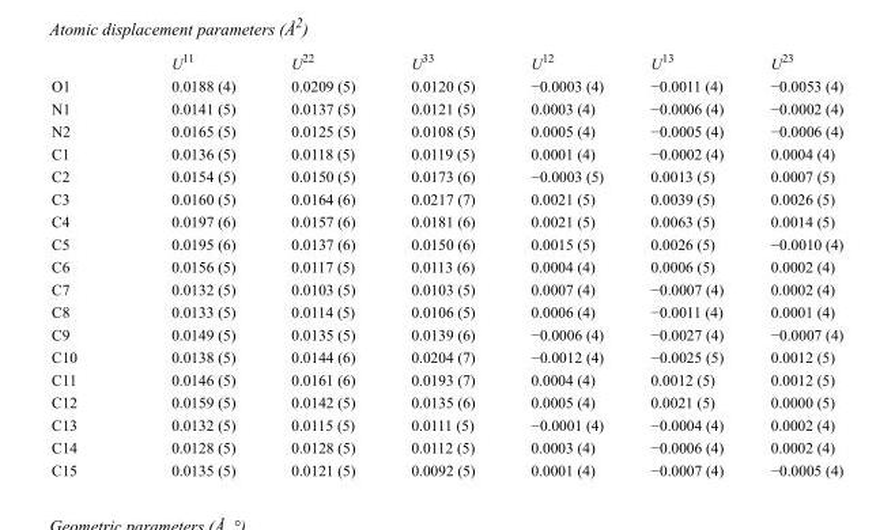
<table><thead><tr><td></td><td>U<sup>11</sup></td><td>U<sup>22</sup></td><td>U<sup>33</sup></td><td>U<sup>12</sup></td><td>U<sup>13</sup></td><td>U<sup>23</sup></td></tr></thead><tbody><tr><td>O1</td><td>0.0188 (4)</td><td>0.0209 (5)</td><td>0.0120 (5)</td><td>−0.0003 (4)</td><td>−0.0011 (4)</td><td>−0.0053 (4)</td></tr><tr><td>N1</td><td>0.0141 (5)</td><td>0.0137 (5)</td><td>0.0121 (5)</td><td>0.0003 (4)</td><td>−0.0006 (4)</td><td>−0.0002 (4)</td></tr><tr><td>N2</td><td>0.0165 (5)</td><td>0.0125 (5)</td><td>0.0108 (5)</td><td>0.0005 (4)</td><td>−0.0005 (4)</td><td>−0.0006 (4)</td></tr><tr><td>C1</td><td>0.0136 (5)</td><td>0.0118 (5)</td><td>0.0119 (5)</td><td>0.0001 (4)</td><td>−0.0002 (4)</td><td>0.0004 (4)</td></tr><tr><td>C2</td><td>0.0154 (5)</td><td>0.0150 (5)</td><td>0.0173 (6)</td><td>−0.0003 (5)</td><td>0.0013 (5)</td><td>0.0007 (5)</td></tr><tr><td>C3</td><td>0.0160 (5)</td><td>0.0164 (6)</td><td>0.0217 (7)</td><td>0.0021 (5)</td><td>0.0039 (5)</td><td>0.0026 (5)</td></tr><tr><td>C4</td><td>0.0197 (6)</td><td>0.0157 (6)</td><td>0.0181 (6)</td><td>0.0021 (5)</td><td>0.0063 (5)</td><td>0.0014 (5)</td></tr><tr><td>C5</td><td>0.0195 (6)</td><td>0.0137 (6)</td><td>0.0150 (6)</td><td>0.0015 (5)</td><td>0.0026 (5)</td><td>−0.0010 (4)</td></tr><tr><td>C6</td><td>0.0156 (5)</td><td>0.0117 (5)</td><td>0.0113 (6)</td><td>0.0004 (4)</td><td>0.0006 (5)</td><td>0.0002 (4)</td></tr><tr><td>C7</td><td>0.0132 (5)</td><td>0.0103 (5)</td><td>0.0103 (5)</td><td>0.0007 (4)</td><td>−0.0007 (4)</td><td>0.0002 (4)</td></tr><tr><td>C8</td><td>0.0133 (5)</td><td>0.0114 (5)</td><td>0.0106 (5)</td><td>0.0006 (4)</td><td>−0.0011 (4)</td><td>0.0001 (4)</td></tr><tr><td>C9</td><td>0.0149 (5)</td><td>0.0135 (5)</td><td>0.0139 (6)</td><td>−0.0006 (4)</td><td>−0.0027 (4)</td><td>−0.0007 (4)</td></tr><tr><td>C10</td><td>0.0138 (5)</td><td>0.0144 (6)</td><td>0.0204 (7)</td><td>−0.0012 (4)</td><td>−0.0025 (5)</td><td>0.0012 (5)</td></tr><tr><td>C11</td><td>0.0146 (5)</td><td>0.0161 (6)</td><td>0.0193 (7)</td><td>0.0004 (4)</td><td>0.0012 (5)</td><td>0.0012 (5)</td></tr><tr><td>C12</td><td>0.0159 (5)</td><td>0.0142 (5)</td><td>0.0135 (6)</td><td>0.0005 (4)</td><td>0.0021 (5)</td><td>0.0000 (5)</td></tr><tr><td>C13</td><td>0.0132 (5)</td><td>0.0115 (5)</td><td>0.0111 (5)</td><td>−0.0001 (4)</td><td>−0.0004 (4)</td><td>0.0002 (4)</td></tr><tr><td>C14</td><td>0.0128 (5)</td><td>0.0128 (5)</td><td>0.0112 (5)</td><td>0.0003 (4)</td><td>−0.0006 (4)</td><td>0.0002 (4)</td></tr><tr><td>C15</td><td>0.0135 (5)</td><td>0.0121 (5)</td><td>0.0092 (5)</td><td>0.0001 (4)</td><td>−0.0007 (4)</td><td>−0.0005 (4)</td></tr></tbody></table>